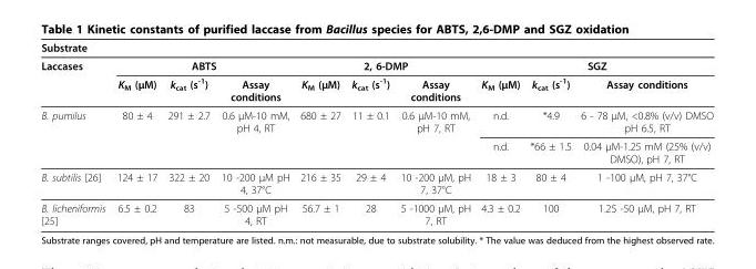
<table><thead><tr><td colspan="10">Substrate</td></tr><tr><td rowspan="2">Laccases</td><td colspan="3">ABTS</td><td colspan="3">2, 6-DMP</td><td colspan="3">SGZ</td></tr><tr><td>K<sub>M</sub> (μM)</td><td>k<sub>cat</sub> (s<sup>-1</sup>)</td><td>Assay conditions</td><td>K<sub>M</sub> (μM)</td><td>k<sub>cat</sub> (s<sup>-1</sup>)</td><td>Assay conditions</td><td>K<sub>M</sub> (μM)</td><td>k<sub>cat</sub> (s<sup>-1</sup>)</td><td>Assay conditions</td></tr></thead><tbody><tr><td rowspan="2">B. pumilus</td><td>80 ± 4</td><td>291 ± 2.7</td><td>0.6 μM-10 mM, pH 4, RT</td><td>680 ± 27</td><td>11 ± 0.1</td><td>0.6 μM-10 mM, pH 7, RT</td><td>n.d.</td><td>*4.9</td><td>6 - 78 μM, &lt;0.8% (v/v) DMSO pH 6.5, RT</td></tr><tr><td></td><td></td><td></td><td></td><td></td><td></td><td>n.d.</td><td>*66 ± 1.5</td><td>0.04 μM-1.25 mM (25% (v/v) DMSO), pH 7, RT</td></tr><tr><td>B. subtilis [26]</td><td>124 ± 17</td><td>322 ± 20</td><td>10 -200 μM pH 4, 37°C</td><td>216 ± 35</td><td>29 ± 4</td><td>10 -200 μM, pH 7, 37°C</td><td>18 ± 3</td><td>80 ± 4</td><td>1 -100 μM, pH 7, 37°C</td></tr><tr><td>B. licheniformis [25]</td><td>6.5 ± 0.2</td><td>83</td><td>5 -500 μM pH 4, RT</td><td>56.7 ± 1</td><td>28</td><td>5 -1000 μM, pH 7, RT</td><td>4.3 ± 0.2</td><td>100</td><td>1.25 -50 μM, pH 7, RT</td></tr></tbody></table>